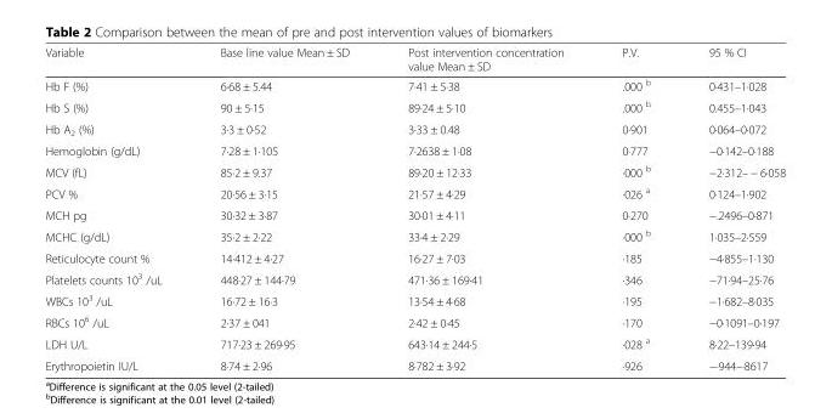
<table><thead><tr><td>Variable</td><td>Base line value Mean ± SD</td><td>Post intervention concentration value Mean ± SD</td><td>P.V.</td><td>95 % CI</td></tr></thead><tbody><tr><td>Hb F (%)</td><td>6·68 ± 5.44</td><td>7·41 ± 5·38</td><td>.000 <sup>b</sup></td><td>0·431–1·028</td></tr><tr><td>Hb S (%)</td><td>90 ± 5·15</td><td>89·24 ± 5·10</td><td>.000 <sup>b</sup></td><td>0.455–1·043</td></tr><tr><td>Hb A<sub>2</sub> (%)</td><td>3·3 ± 0·52</td><td>3·33 ± 0.48</td><td>0·901</td><td>0·064–0·072</td></tr><tr><td>Hemoglobin (g/dL)</td><td>7·28 ± 1·105</td><td>7·2638 ± 1·08</td><td>0·777</td><td>−0·142–0·188</td></tr><tr><td>MCV (fL)</td><td>85·2 ± 9.37</td><td>89·20 ± 12·33</td><td>·000 <sup>b</sup></td><td>−2·312– − 6·058</td></tr><tr><td>PCV %</td><td>20·56 ± 3·15</td><td>21·57 ± 4·29</td><td>·026 <sup>a</sup></td><td>0·124–1·902</td></tr><tr><td>MCH pg</td><td>30·32 ± 3·87</td><td>30·01 ± 4·11</td><td>0·270</td><td>−.2496–0·871</td></tr><tr><td>MCHC (g/dL)</td><td>35·2 ± 2·22</td><td>33·4 ± 2·29</td><td>·000 <sup>b</sup></td><td>1·035–2·559</td></tr><tr><td>Reticulocyte count %</td><td>14·412 ± 4·27</td><td>16·27 ± 7·03</td><td>·185</td><td>−4·855–1·130</td></tr><tr><td>Platelets counts 10<sup>3</sup> /uL</td><td>448·27 ± 144·79</td><td>471·36 ± 169·41</td><td>·346</td><td>−71·94–25·76</td></tr><tr><td>WBCs 10<sup>3</sup> /uL</td><td>16·72 ± 16·3</td><td>13·54 ± 4·68</td><td>·195</td><td>−1·682–8·035</td></tr><tr><td>RBCs 10<sup>6</sup> /uL</td><td>2·37 ± 041</td><td>2·42 ± 0·45</td><td>·170</td><td>−0·1091–0·197</td></tr><tr><td>LDH U/L</td><td>717·23 ± 269·95</td><td>643·14 ± 244·5</td><td>·028 <sup>a</sup></td><td>8·22–139·94</td></tr><tr><td>Erythropoietin IU/L</td><td>8·74 ± 2·96</td><td>8·782 ± 3·92</td><td>·926</td><td>−·944–·8617</td></tr></tbody></table>